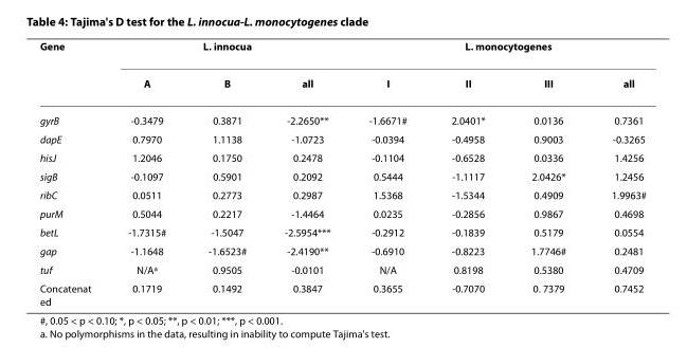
<table><thead><tr><td rowspan="2">Gene</td><td colspan="3">L. innocua</td><td colspan="4">L. monocytogenes</td></tr><tr><td>A</td><td>B</td><td>all</td><td>I</td><td>II</td><td>III</td><td>all</td></tr></thead><tbody><tr><td>gyrB</td><td>-0.3479</td><td>0.3871</td><td>-2.2650**</td><td>-1.6671#</td><td>2.0401*</td><td>0.0136</td><td>0.7361</td></tr><tr><td>dapE</td><td>0.7970</td><td>1.1138</td><td>-1.0723</td><td>-0.0394</td><td>-0.4958</td><td>0.9003</td><td>-0.3265</td></tr><tr><td>hisJ</td><td>1.2046</td><td>0.1750</td><td>0.2478</td><td>-0.1104</td><td>-0.6528</td><td>0.0336</td><td>1.4256</td></tr><tr><td>sigB</td><td>-0.1097</td><td>0.5901</td><td>0.2092</td><td>0.5444</td><td>-1.1117</td><td>2.0426*</td><td>1.2456</td></tr><tr><td>ribC</td><td>0.0511</td><td>0.2773</td><td>0.2987</td><td>1.5368</td><td>-1.5344</td><td>0.4909</td><td>1.9963#</td></tr><tr><td>purM</td><td>0.5044</td><td>0.2217</td><td>-1.4464</td><td>0.0235</td><td>-0.2856</td><td>0.9867</td><td>0.4698</td></tr><tr><td>betL</td><td>-1.7315#</td><td>-1.5047</td><td>-2.5954***</td><td>-0.2912</td><td>-0.1839</td><td>0.5179</td><td>0.0554</td></tr><tr><td>gap</td><td>-1.1648</td><td>-1.6523#</td><td>-2.4190**</td><td>-0.6910</td><td>-0.8223</td><td>1.7746#</td><td>0.2481</td></tr><tr><td>tuf</td><td>N/A<sup>a</sup></td><td>0.9505</td><td>-0.0101</td><td>N/A</td><td>0.8198</td><td>0.5380</td><td>0.4709</td></tr><tr><td>Concatenat ed</td><td>0.1719</td><td>0.1492</td><td>0.3847</td><td>0.3655</td><td>-0.7070</td><td>0. 7379</td><td>0.7452</td></tr></tbody></table>